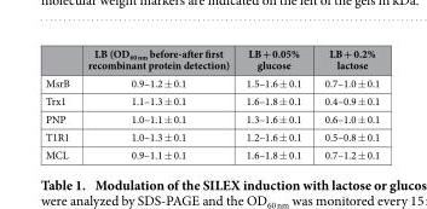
<table><thead><tr><td></td><td>LB (OD<sub>60 nm</sub> before-after first recombinant protein detection)</td><td>LB + 0.05% glucose</td><td>LB + 0.2% lactose</td></tr></thead><tbody><tr><td>MsrB</td><td>0.9–1.2 ± 0.1</td><td>1.5–1.6 ± 0.1</td><td>0.7–1.0 ± 0.1</td></tr><tr><td>Trx1</td><td>1.1–1.3 ± 0.1</td><td>1.6–1.8 ± 0.1</td><td>0.4–0.9 ± 0.1</td></tr><tr><td>PNP</td><td>1.0–1.1 ± 0.1</td><td>1.3–1.6 ± 0.1</td><td>0.6–1.0 ± 0.1</td></tr><tr><td>T1R1</td><td>1.0–1.3 ± 0.1</td><td>1.2–1.6 ± 0.1</td><td>0.5–0.8 ± 0.1</td></tr><tr><td>MCL</td><td>0.9–1.1 ± 0.1</td><td>1.6–1.8 ± 0.1</td><td>0.7–1.2 ± 0.1</td></tr></tbody></table>